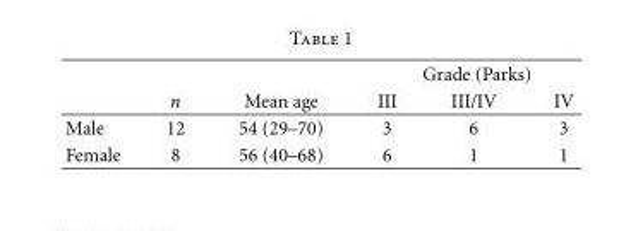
<table><thead><tr><td rowspan="2"></td><td rowspan="2">n</td><td rowspan="2">Mean age</td><td colspan="3">Grade (Parks)</td></tr><tr><td>III</td><td>III/IV</td><td>IV</td></tr></thead><tbody><tr><td>Male</td><td>12</td><td>54 (29–70)</td><td>3</td><td>6</td><td>3</td></tr><tr><td>Female</td><td>8</td><td>56 (40–68)</td><td>6</td><td>1</td><td>1</td></tr></tbody></table>